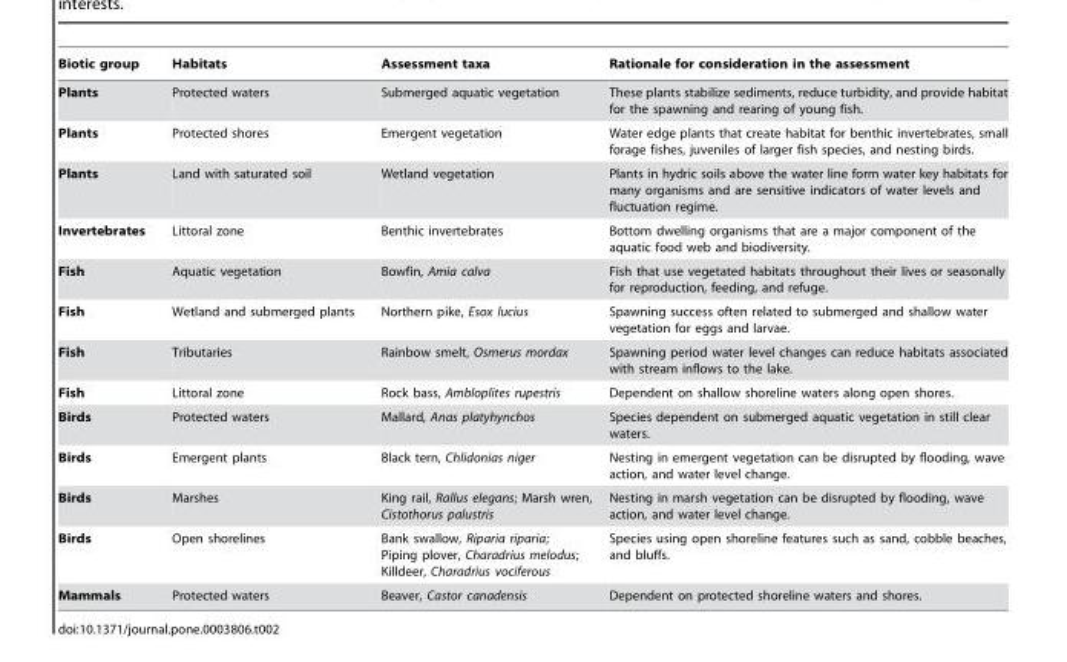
<table><thead><tr><td>Biotic group</td><td>Habitats</td><td>Assessment taxa</td><td>Rationale for consideration in the assessment</td></tr></thead><tbody><tr><td>Plants</td><td>Protected waters</td><td>Submerged aquatic vegetation</td><td>These plants stabilize sediments, reduce turbidity, and provide habitat for the spawning and rearing of young fish.</td></tr><tr><td>Plants</td><td>Protected shores</td><td>Emergent vegetation</td><td>Water edge plants that create habitat for benthic invertebrates, small forage fishes, juveniles of larger fish species, and nesting birds.</td></tr><tr><td>Plants</td><td>Land with saturated soil</td><td>Wetland vegetation</td><td>Plants in hydric soils above the water line form water key habitats for many organisms and are sensitive indicators of water levels and fluctuation regime.</td></tr><tr><td>Invertebrates</td><td>Littoral zone</td><td>Benthic invertebrates</td><td>Bottom dwelling organisms that are a major component of the aquatic food web and biodiversity.</td></tr><tr><td>Fish</td><td>Aquatic vegetation</td><td>Bowfin, Amia calva</td><td>Fish that use vegetated habitats throughout their lives or seasonally for reproduction, feeding, and refuge.</td></tr><tr><td>Fish</td><td>Wetland and submerged plants</td><td>Northern pike, Esox lucius</td><td>Spawning success often related to submerged and shallow water vegetation for eggs and larvae.</td></tr><tr><td>Fish</td><td>Tributaries</td><td>Rainbow smelt, Osmerus mordax</td><td>Spawning period water level changes can reduce habitats associated with stream inflows to the lake.</td></tr><tr><td>Fish</td><td>Littoral zone</td><td>Rock bass, Ambloplites rupestris</td><td>Dependent on shallow shoreline waters along open shores.</td></tr><tr><td>Birds</td><td>Protected waters</td><td>Mallard, Anas platyhynchos</td><td>Species dependent on submerged aquatic vegetation in still clear waters.</td></tr><tr><td>Birds</td><td>Emergent plants</td><td>Black tern, Chlidonias niger</td><td>Nesting in emergent vegetation can be disrupted by flooding, wave action, and water level change.</td></tr><tr><td>Birds</td><td>Marshes</td><td>King rail, Rallus elegans; Marsh wren, Cistothorus palustris</td><td>Nesting in marsh vegetation can be disrupted by flooding, wave action, and water level change.</td></tr><tr><td>Birds</td><td>Open shorelines</td><td>Bank swallow, Riparia riparia; Piping plover, Charadrius melodus; Killdeer, Charadrius vociferous</td><td>Species using open shoreline features such as sand, cobble beaches, and bluffs.</td></tr><tr><td>Mammals</td><td>Protected waters</td><td>Beaver, Castor canadensis</td><td>Dependent on protected shoreline waters and shores.</td></tr></tbody></table>